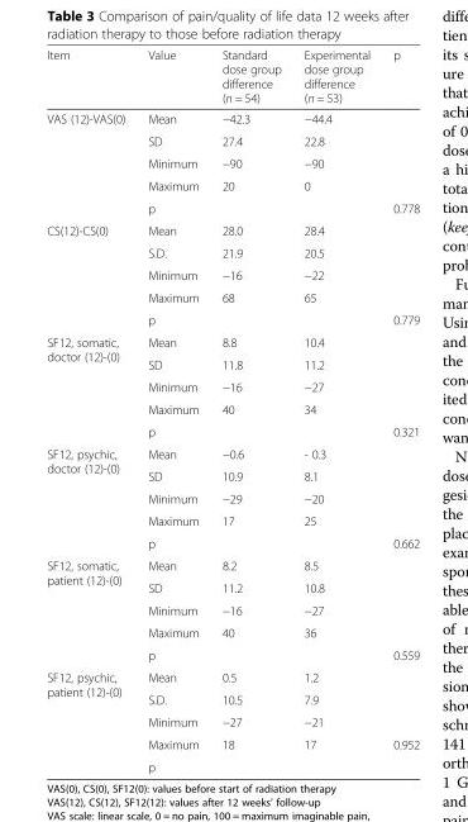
<table><thead><tr><td>Item</td><td>Value</td><td>Standard dose group difference (n = 54)</td><td>Experimental dose group difference (n = 53)</td><td>p</td></tr></thead><tbody><tr><td rowspan="5">VAS (12)-VAS(0)</td><td>Mean</td><td>−42.3</td><td>−44.4</td><td></td></tr><tr><td>SD</td><td>27.4</td><td>22.8</td><td></td></tr><tr><td>Minimum</td><td>−90</td><td>−90</td><td></td></tr><tr><td>Maximum</td><td>20</td><td>0</td><td></td></tr><tr><td>p</td><td></td><td></td><td>0.778</td></tr><tr><td rowspan="5">CS(12)-CS(0)</td><td>Mean</td><td>28.0</td><td>28.4</td><td></td></tr><tr><td>S.D.</td><td>21.9</td><td>20.5</td><td></td></tr><tr><td>Minimum</td><td>−16</td><td>−22</td><td></td></tr><tr><td>Maximum</td><td>68</td><td>65</td><td></td></tr><tr><td>p</td><td></td><td></td><td>0.779</td></tr><tr><td rowspan="5">SF12, somatic, doctor (12)-(0)</td><td>Mean</td><td>8.8</td><td>10.4</td><td></td></tr><tr><td>SD</td><td>11.8</td><td>11.2</td><td></td></tr><tr><td>Minimum</td><td>−16</td><td>−27</td><td></td></tr><tr><td>Maximum</td><td>40</td><td>34</td><td></td></tr><tr><td>p</td><td></td><td></td><td>0.321</td></tr><tr><td rowspan="5">SF12, psychic, doctor (12)-(0)</td><td>Mean</td><td>−0.6</td><td>- 0.3</td><td></td></tr><tr><td>SD</td><td>10.9</td><td>8.1</td><td></td></tr><tr><td>Minimum</td><td>−29</td><td>−20</td><td></td></tr><tr><td>Maximum</td><td>17</td><td>25</td><td></td></tr><tr><td>p</td><td></td><td></td><td>0.662</td></tr><tr><td rowspan="5">SF12, somatic, patient (12)-(0)</td><td>Mean</td><td>8.2</td><td>8.5</td><td></td></tr><tr><td>SD</td><td>11.2</td><td>10.8</td><td></td></tr><tr><td>Minimum</td><td>−16</td><td>−27</td><td></td></tr><tr><td>Maximum</td><td>40</td><td>36</td><td></td></tr><tr><td>p</td><td></td><td></td><td>0.559</td></tr><tr><td rowspan="5">SF12, psychic, patient (12)-(0)</td><td>Mean</td><td>0.5</td><td>1.2</td><td></td></tr><tr><td>S.D.</td><td>10.5</td><td>7.9</td><td></td></tr><tr><td>Minimum</td><td>−27</td><td>−21</td><td></td></tr><tr><td>Maximum</td><td>18</td><td>17</td><td>0.952</td></tr><tr><td>p</td><td></td><td></td><td></td></tr></tbody></table>